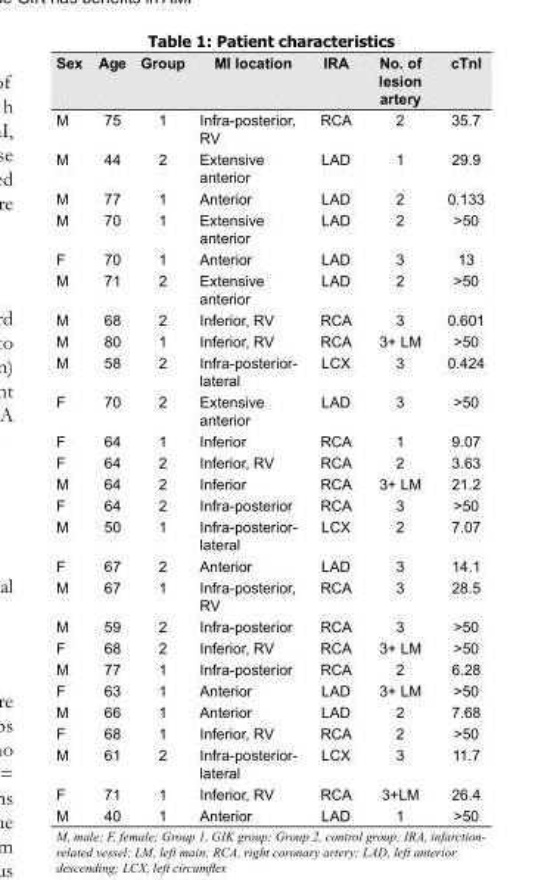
<table><thead><tr><td>Sex</td><td>Age</td><td>Group</td><td>MI location</td><td>IRA</td><td>No. of lesion artery</td><td>cTnI</td></tr></thead><tbody><tr><td>M</td><td>75</td><td>1</td><td>Infra-posterior, RV</td><td>RCA</td><td>2</td><td>35.7</td></tr><tr><td>M</td><td>44</td><td>2</td><td>Extensive anterior</td><td>LAD</td><td>1</td><td>29.9</td></tr><tr><td>M</td><td>77</td><td>1</td><td>Anterior</td><td>LAD</td><td>2</td><td>0.133</td></tr><tr><td>M</td><td>70</td><td>1</td><td>Extensive anterior</td><td>LAD</td><td>2</td><td>&gt;50</td></tr><tr><td>F</td><td>70</td><td>1</td><td>Anterior</td><td>LAD</td><td>3</td><td>13</td></tr><tr><td>M</td><td>71</td><td>2</td><td>Extensive anterior</td><td>LAD</td><td>2</td><td>&gt;50</td></tr><tr><td>M</td><td>68</td><td>2</td><td>Inferior, RV</td><td>RCA</td><td>3</td><td>0.601</td></tr><tr><td>M</td><td>80</td><td>1</td><td>Inferior, RV</td><td>RCA</td><td>3+ LM</td><td>&gt;50</td></tr><tr><td>M</td><td>58</td><td>2</td><td>Infra-posterior- lateral</td><td>LCX</td><td>3</td><td>0.424</td></tr><tr><td>F</td><td>70</td><td>2</td><td>Extensive anterior</td><td>LAD</td><td>3</td><td>&gt;50</td></tr><tr><td>F</td><td>64</td><td>1</td><td>Inferior</td><td>RCA</td><td>1</td><td>9.07</td></tr><tr><td>F</td><td>64</td><td>2</td><td>Inferior, RV</td><td>RCA</td><td>2</td><td>3.63</td></tr><tr><td>M</td><td>64</td><td>2</td><td>Inferior</td><td>RCA</td><td>3+ LM</td><td>21.2</td></tr><tr><td>F</td><td>64</td><td>2</td><td>Infra-posterior</td><td>RCA</td><td>3</td><td>&gt;50</td></tr><tr><td>M</td><td>50</td><td>1</td><td>Infra-posterior- lateral</td><td>LCX</td><td>2</td><td>7.07</td></tr><tr><td>F</td><td>67</td><td>2</td><td>Anterior</td><td>LAD</td><td>3</td><td>14.1</td></tr><tr><td>M</td><td>67</td><td>1</td><td>Infra-posterior, RV</td><td>RCA</td><td>3</td><td>28.5</td></tr><tr><td>M</td><td>59</td><td>2</td><td>Infra-posterior</td><td>RCA</td><td>3</td><td>&gt;50</td></tr><tr><td>F</td><td>68</td><td>2</td><td>Inferior, RV</td><td>RCA</td><td>3+ LM</td><td>&gt;50</td></tr><tr><td>M</td><td>77</td><td>1</td><td>Infra-posterior</td><td>RCA</td><td>2</td><td>6.28</td></tr><tr><td>F</td><td>63</td><td>1</td><td>Anterior</td><td>LAD</td><td>3+ LM</td><td>&gt;50</td></tr><tr><td>M</td><td>66</td><td>1</td><td>Anterior</td><td>LAD</td><td>2</td><td>7.68</td></tr><tr><td>F</td><td>68</td><td>1</td><td>Inferior, RV</td><td>RCA</td><td>2</td><td>&gt;50</td></tr><tr><td>M</td><td>61</td><td>2</td><td>Infra-posterior- lateral</td><td>LCX</td><td>3</td><td>11.7</td></tr><tr><td>F</td><td>71</td><td>1</td><td>Inferior, RV</td><td>RCA</td><td>3+LM</td><td>26.4</td></tr><tr><td>M</td><td>40</td><td>1</td><td>Anterior</td><td>LAD</td><td>1</td><td>&gt;50</td></tr></tbody></table>